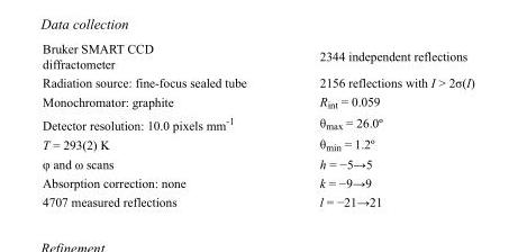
<table><tbody><tr><td>Bruker SMART CCD diffractometer</td><td>2344 independent reflections</td></tr><tr><td>Radiation source: fine-focus sealed tube</td><td>2156 reflections with I &gt; 2σ(I)</td></tr><tr><td>Monochromator: graphite</td><td>R<sub>int</sub> = 0.059</td></tr><tr><td>Detector resolution: 10.0 pixels mm<sup>-1</sup></td><td>θ<sub>max</sub> = 26.0º</td></tr><tr><td>T = 293(2) K</td><td>θ<sub>min</sub> = 1.2º</td></tr><tr><td>φ and ω scans</td><td>h = −5→5</td></tr><tr><td>Absorption correction: none</td><td>k = −9→9</td></tr><tr><td>4707 measured reflections</td><td>l = −21→21</td></tr></tbody></table>